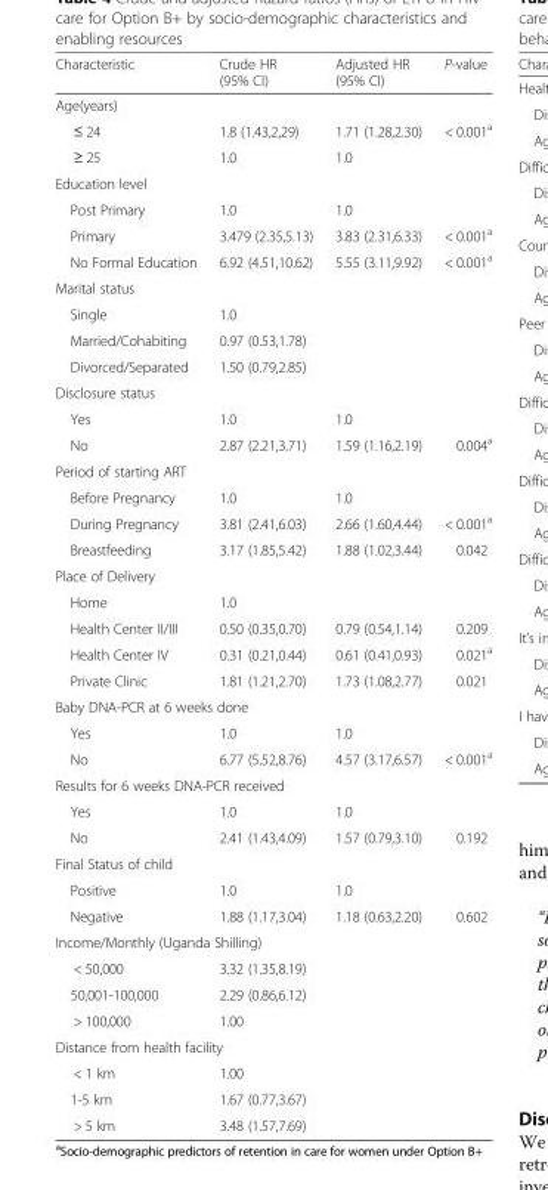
<table><thead><tr><td>Characteristic</td><td>Crude HR (95% CI)</td><td>Adjusted HR (95% CI)</td><td>P-value</td></tr></thead><tbody><tr><td colspan="4">Age(years)</td></tr><tr><td>≤ 24</td><td>1.8 (1.43,2,29)</td><td>1.71 (1.28,2.30)</td><td>&lt; 0.001<sup>a</sup></td></tr><tr><td>≥ 25</td><td>1.0</td><td>1.0</td><td></td></tr><tr><td colspan="4">Education level</td></tr><tr><td>Post Primary</td><td>1.0</td><td>1.0</td><td></td></tr><tr><td>Primary</td><td>3.479 (2.35,5.13)</td><td>3.83 (2.31,6.33)</td><td>&lt; 0.001<sup>a</sup></td></tr><tr><td>No Formal Education</td><td>6.92 (4.51,10.62)</td><td>5.55 (3.11,9.92)</td><td>&lt; 0.001<sup>a</sup></td></tr><tr><td colspan="4">Marital status</td></tr><tr><td>Single</td><td>1.0</td><td></td><td></td></tr><tr><td>Married/Cohabiting</td><td>0.97 (0.53,1.78)</td><td></td><td></td></tr><tr><td>Divorced/Separated</td><td>1.50 (0.79,2.85)</td><td></td><td></td></tr><tr><td colspan="4">Disclosure status</td></tr><tr><td>Yes</td><td>1.0</td><td>1.0</td><td></td></tr><tr><td>No</td><td>2.87 (2.21,3.71)</td><td>1.59 (1.16,2.19)</td><td>0.004<sup>a</sup></td></tr><tr><td colspan="4">Period of starting ART</td></tr><tr><td>Before Pregnancy</td><td>1.0</td><td>1.0</td><td></td></tr><tr><td>During Pregnancy</td><td>3.81 (2.41,6.03)</td><td>2.66 (1.60,4.44)</td><td>&lt; 0.001<sup>a</sup></td></tr><tr><td>Breastfeeding</td><td>3.17 (1.85,5.42)</td><td>1.88 (1.02,3.44)</td><td>0.042</td></tr><tr><td colspan="4">Place of Delivery</td></tr><tr><td>Home</td><td>1.0</td><td></td><td></td></tr><tr><td>Health Center II/III</td><td>0.50 (0.35,0.70)</td><td>0.79 (0.54,1.14)</td><td>0.209</td></tr><tr><td>Health Center IV</td><td>0.31 (0.21,0.44)</td><td>0.61 (0.41,0.93)</td><td>0.021<sup>a</sup></td></tr><tr><td>Private Clinic</td><td>1.81 (1.21,2.70)</td><td>1.73 (1.08,2.77)</td><td>0.021</td></tr><tr><td colspan="4">Baby DNA-PCR at 6 weeks done</td></tr><tr><td>Yes</td><td>1.0</td><td>1.0</td><td></td></tr><tr><td>No</td><td>6.77 (5.52,8.76)</td><td>4.57 (3.17,6.57)</td><td>&lt; 0.001<sup>a</sup></td></tr><tr><td colspan="4">Results for 6 weeks DNA-PCR received</td></tr><tr><td>Yes</td><td>1.0</td><td>1.0</td><td></td></tr><tr><td>No</td><td>2.41 (1.43,4.09)</td><td>1.57 (0.79,3.10)</td><td>0.192</td></tr><tr><td colspan="4">Final Status of child</td></tr><tr><td>Positive</td><td>1.0</td><td>1.0</td><td></td></tr><tr><td>Negative</td><td>1.88 (1.17,3.04)</td><td>1.18 (0.63,2.20)</td><td>0.602</td></tr><tr><td colspan="4">Income/Monthly (Uganda Shilling)</td></tr><tr><td>&lt; 50,000</td><td>3.32 (1.35,8.19)</td><td></td><td></td></tr><tr><td>50,001-100,000</td><td>2.29 (0.86,6.12)</td><td></td><td></td></tr><tr><td>&gt; 100,000</td><td>1.00</td><td></td><td></td></tr><tr><td colspan="4">Distance from health facility</td></tr><tr><td>&lt; 1 km</td><td>1.00</td><td></td><td></td></tr><tr><td>1-5 km</td><td>1.67 (0.77,3.67)</td><td></td><td></td></tr><tr><td>&gt; 5 km</td><td>3.48 (1.57,7.69)</td><td></td><td></td></tr></tbody></table>